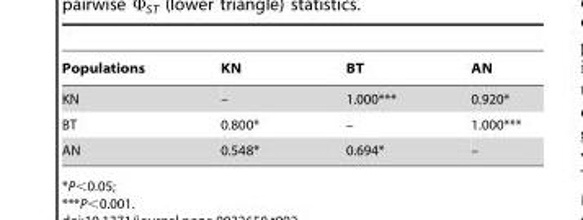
<table><thead><tr><td>Populations</td><td>KN</td><td>BT</td><td>AN</td></tr></thead><tbody><tr><td>KN</td><td>–</td><td>1.000***</td><td>0.920*</td></tr><tr><td>BT</td><td>0.800*</td><td>–</td><td>1.000***</td></tr><tr><td>AN</td><td>0.548*</td><td>0.694*</td><td>–</td></tr></tbody></table>